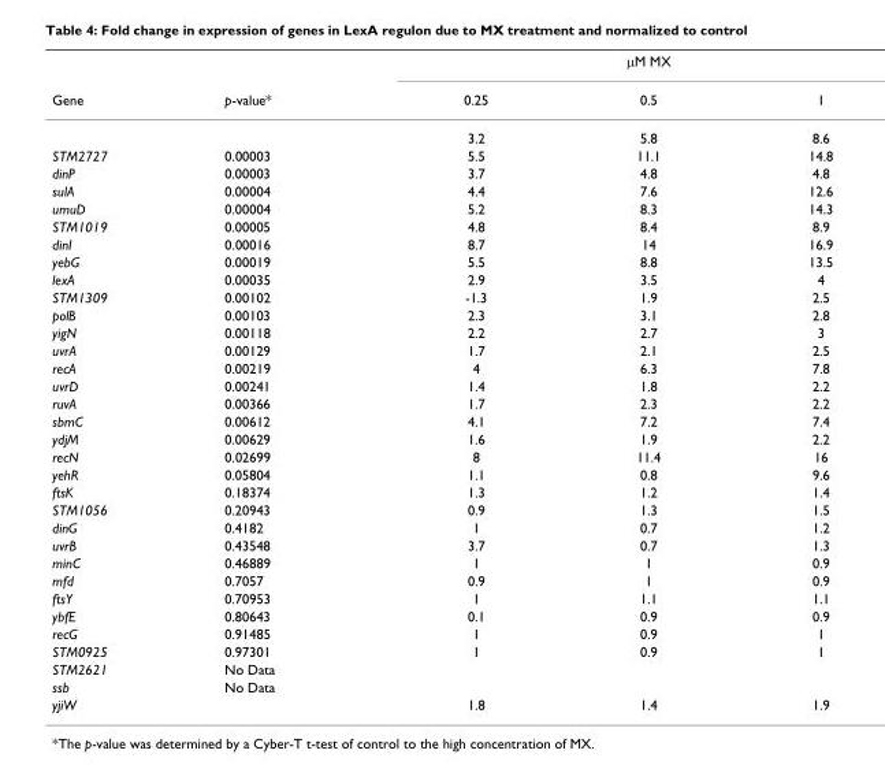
<table><thead><tr><td rowspan="2">Gene</td><td rowspan="2">p-value*</td><td colspan="3">μM MX</td></tr><tr><td>0.25</td><td>0.5</td><td>1</td></tr></thead><tbody><tr><td></td><td></td><td>3.2</td><td>5.8</td><td>8.6</td></tr><tr><td>STM2727</td><td>0.00003</td><td>5.5</td><td>11.1</td><td>14.8</td></tr><tr><td>dinP</td><td>0.00003</td><td>3.7</td><td>4.8</td><td>4.8</td></tr><tr><td>sulA</td><td>0.00004</td><td>4.4</td><td>7.6</td><td>12.6</td></tr><tr><td>umuD</td><td>0.00004</td><td>5.2</td><td>8.3</td><td>14.3</td></tr><tr><td>STM1019</td><td>0.00005</td><td>4.8</td><td>8.4</td><td>8.9</td></tr><tr><td>dinI</td><td>0.00016</td><td>8.7</td><td>14</td><td>16.9</td></tr><tr><td>yebG</td><td>0.00019</td><td>5.5</td><td>8.8</td><td>13.5</td></tr><tr><td>lexA</td><td>0.00035</td><td>2.9</td><td>3.5</td><td>4</td></tr><tr><td>STM1309</td><td>0.00102</td><td>-1.3</td><td>1.9</td><td>2.5</td></tr><tr><td>polB</td><td>0.00103</td><td>2.3</td><td>3.1</td><td>2.8</td></tr><tr><td>yigN</td><td>0.00118</td><td>2.2</td><td>2.7</td><td>3</td></tr><tr><td>uvrA</td><td>0.00129</td><td>1.7</td><td>2.1</td><td>2.5</td></tr><tr><td>recA</td><td>0.00219</td><td>4</td><td>6.3</td><td>7.8</td></tr><tr><td>uvrD</td><td>0.00241</td><td>1.4</td><td>1.8</td><td>2.2</td></tr><tr><td>ruvA</td><td>0.00366</td><td>1.7</td><td>2.3</td><td>2.2</td></tr><tr><td>sbmC</td><td>0.00612</td><td>4.1</td><td>7.2</td><td>7.4</td></tr><tr><td>ydjM</td><td>0.00629</td><td>1.6</td><td>1.9</td><td>2.2</td></tr><tr><td>recN</td><td>0.02699</td><td>8</td><td>11.4</td><td>16</td></tr><tr><td>yehR</td><td>0.05804</td><td>1.1</td><td>0.8</td><td>9.6</td></tr><tr><td>ftsK</td><td>0.18374</td><td>1.3</td><td>1.2</td><td>1.4</td></tr><tr><td>STM1056</td><td>0.20943</td><td>0.9</td><td>1.3</td><td>1.5</td></tr><tr><td>dinG</td><td>0.4182</td><td>1</td><td>0.7</td><td>1.2</td></tr><tr><td>uvrB</td><td>0.43548</td><td>3.7</td><td>0.7</td><td>1.3</td></tr><tr><td>minC</td><td>0.46889</td><td>1</td><td>1</td><td>0.9</td></tr><tr><td>mfd</td><td>0.7057</td><td>0.9</td><td>1</td><td>0.9</td></tr><tr><td>ftsY</td><td>0.70953</td><td>1</td><td>1.1</td><td>1.1</td></tr><tr><td>ybfE</td><td>0.80643</td><td>0.1</td><td>0.9</td><td>0.9</td></tr><tr><td>recG</td><td>0.91485</td><td>1</td><td>0.9</td><td>1</td></tr><tr><td>STM0925</td><td>0.97301</td><td>1</td><td>0.9</td><td>1</td></tr><tr><td>STM2621</td><td>No Data</td><td></td><td></td><td></td></tr><tr><td>ssb</td><td>No Data</td><td></td><td></td><td></td></tr><tr><td>yjiW</td><td></td><td>1.8</td><td>1.4</td><td>1.9</td></tr></tbody></table>